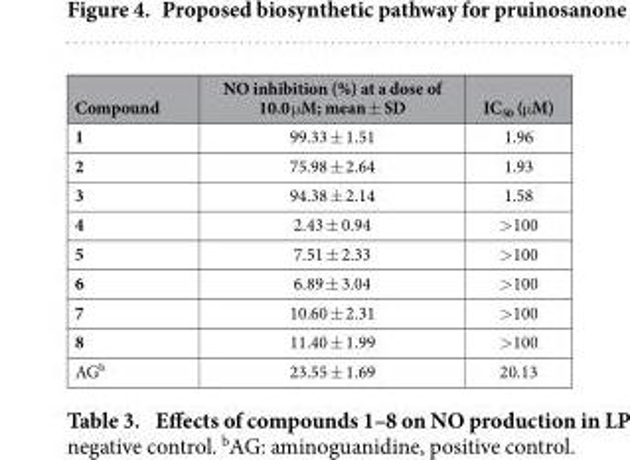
<table><thead><tr><td>Compound</td><td>NO inhibition (%) at a dose of 10.0 μ M; mean ± SD</td><td>IC<sub>50</sub> (μ M)</td></tr></thead><tbody><tr><td>1</td><td>99.33 ± 1.51</td><td>1.96</td></tr><tr><td>2</td><td>75.98 ± 2.64</td><td>1.93</td></tr><tr><td>3</td><td>94.38 ± 2.14</td><td>1.58</td></tr><tr><td>4</td><td>2.43 ± 0.94</td><td>&gt; 100</td></tr><tr><td>5</td><td>7.51 ± 2.33</td><td>&gt; 100</td></tr><tr><td>6</td><td>6.89 ± 3.04</td><td>&gt; 100</td></tr><tr><td>7</td><td>10.60 ± 2.31</td><td>&gt; 100</td></tr><tr><td>8</td><td>11.40 ± 1.99</td><td>&gt; 100</td></tr><tr><td>AG<sup>b</sup></td><td>23.55 ± 1.69</td><td>20.13</td></tr></tbody></table>